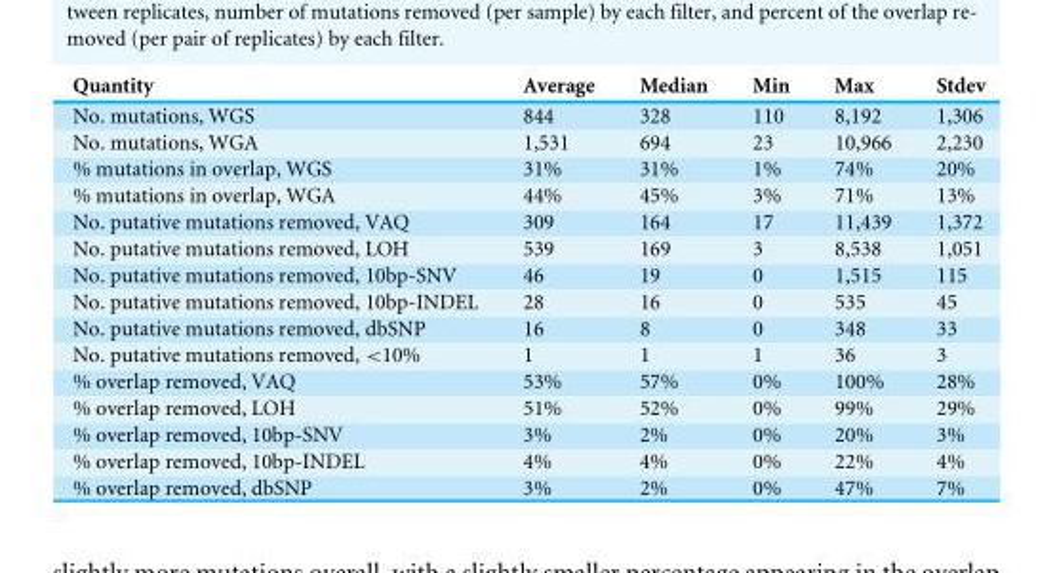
<table><thead><tr><td>Quantity</td><td>Average</td><td>Median</td><td>Min</td><td>Max</td><td>Stdev</td></tr></thead><tbody><tr><td>No. mutations, WGS</td><td>844</td><td>328</td><td>110</td><td>8,192</td><td>1,306</td></tr><tr><td>No. mutations, WGA</td><td>1,531</td><td>694</td><td>23</td><td>10,966</td><td>2,230</td></tr><tr><td>% mutations in overlap, WGS</td><td>31%</td><td>31%</td><td>1%</td><td>74%</td><td>20%</td></tr><tr><td>% mutations in overlap, WGA</td><td>44%</td><td>45%</td><td>3%</td><td>71%</td><td>13%</td></tr><tr><td>No. putative mutations removed, VAQ</td><td>309</td><td>164</td><td>17</td><td>11,439</td><td>1,372</td></tr><tr><td>No. putative mutations removed, LOH</td><td>539</td><td>169</td><td>3</td><td>8,538</td><td>1,051</td></tr><tr><td>No. putative mutations removed, 10bp-SNV</td><td>46</td><td>19</td><td>0</td><td>1,515</td><td>115</td></tr><tr><td>No. putative mutations removed, 10bp-INDEL</td><td>28</td><td>16</td><td>0</td><td>535</td><td>45</td></tr><tr><td>No. putative mutations removed, dbSNP</td><td>16</td><td>8</td><td>0</td><td>348</td><td>33</td></tr><tr><td>No. putative mutations removed, &lt;10%</td><td>1</td><td>1</td><td>1</td><td>36</td><td>3</td></tr><tr><td>% overlap removed, VAQ</td><td>53%</td><td>57%</td><td>0%</td><td>100%</td><td>28%</td></tr><tr><td>% overlap removed, LOH</td><td>51%</td><td>52%</td><td>0%</td><td>99%</td><td>29%</td></tr><tr><td>% overlap removed, 10bp-SNV</td><td>3%</td><td>2%</td><td>0%</td><td>20%</td><td>3%</td></tr><tr><td>% overlap removed, 10bp-INDEL</td><td>4%</td><td>4%</td><td>0%</td><td>22%</td><td>4%</td></tr><tr><td>% overlap removed, dbSNP</td><td>3%</td><td>2%</td><td>0%</td><td>47%</td><td>7%</td></tr></tbody></table>